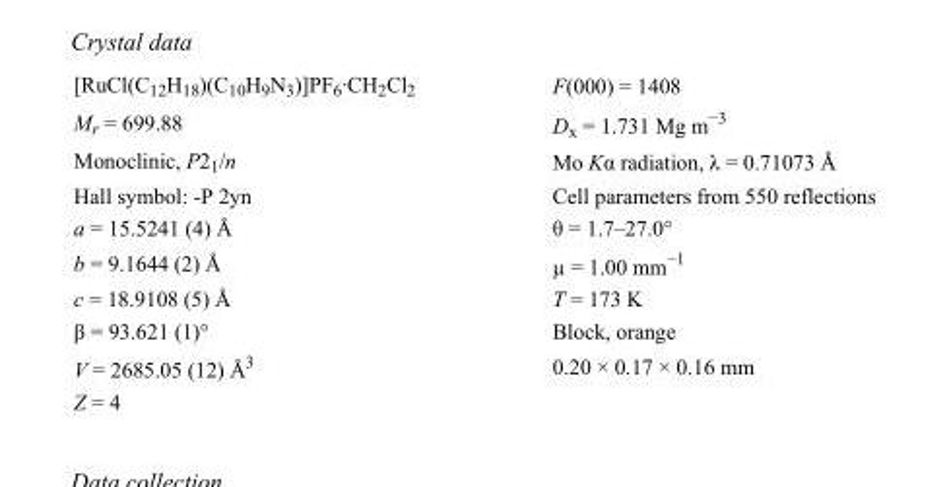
<table><tbody><tr><td>[RuCl(C<sub>12</sub>H<sub>18</sub>)(C<sub>10</sub>H<sub>9</sub>N<sub>3</sub>)]PF<sub>6</sub>·CH<sub>2</sub>Cl<sub>2</sub></td><td>F(000) = 1408</td></tr><tr><td>M<sub>r</sub> = 699.88</td><td>D<sub>x</sub> = 1.731 Mg m<sup>−3</sup></td></tr><tr><td>Monoclinic, P2<sub>1</sub>/n</td><td>Mo Kα radiation, λ = 0.71073 Å</td></tr><tr><td>Hall symbol: -P 2yn</td><td>Cell parameters from 550 reflections</td></tr><tr><td>a = 15.5241 (4) Å</td><td>θ = 1.7–27.0°</td></tr><tr><td>b = 9.1644 (2) Å</td><td>µ = 1.00 mm<sup>−1</sup></td></tr><tr><td>c = 18.9108 (5) Å</td><td>T = 173 K</td></tr><tr><td>β = 93.621 (1)°</td><td>Block, orange</td></tr><tr><td>V = 2685.05 (12) Å<sup>3</sup></td><td>0.20 × 0.17 × 0.16 mm</td></tr><tr><td>Z = 4</td><td></td></tr></tbody></table>